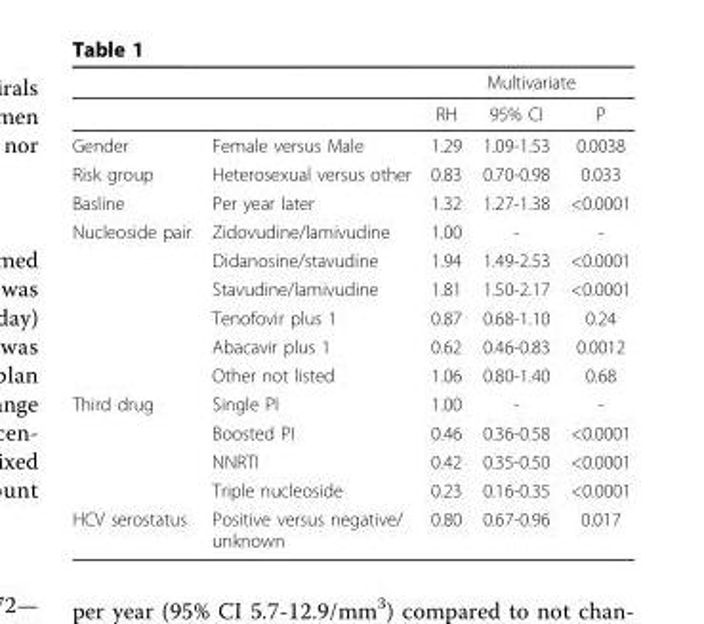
<table><thead><tr><td rowspan="2"></td><td rowspan="2"></td><td colspan="3">Multivariate</td></tr><tr><td>RH</td><td>95% CI</td><td>P</td></tr></thead><tbody><tr><td>Gender</td><td>Female versus Male</td><td>1.29</td><td>1.09-1.53</td><td>0.0038</td></tr><tr><td>Risk group</td><td>Heterosexual versus other</td><td>0.83</td><td>0.70-0.98</td><td>0.033</td></tr><tr><td>Basline</td><td>Per year later</td><td>1.32</td><td>1.27-1.38</td><td>&lt;0.0001</td></tr><tr><td rowspan="6">Nucleoside pair</td><td>Zidovudine/lamivudine</td><td>1.00</td><td>-</td><td>-</td></tr><tr><td>Didanosine/stavudine</td><td>1.94</td><td>1.49-2.53</td><td>&lt;0.0001</td></tr><tr><td>Stavudine/lamivudine</td><td>1.81</td><td>1.50-2.17</td><td>&lt;0.0001</td></tr><tr><td>Tenofovir plus 1</td><td>0.87</td><td>0.68-1.10</td><td>0.24</td></tr><tr><td>Abacavir plus 1</td><td>0.62</td><td>0.46-0.83</td><td>0.0012</td></tr><tr><td>Other not listed</td><td>1.06</td><td>0.80-1.40</td><td>0.68</td></tr><tr><td rowspan="4">Third drug</td><td>Single PI</td><td>1.00</td><td>-</td><td>-</td></tr><tr><td>Boosted PI</td><td>0.46</td><td>0.36-0.58</td><td>&lt;0.0001</td></tr><tr><td>NNRTI</td><td>0.42</td><td>0.35-0.50</td><td>&lt;0.0001</td></tr><tr><td>Triple nucleoside</td><td>0.23</td><td>0.16-0.35</td><td>&lt;0.0001</td></tr><tr><td>HCV serostatus</td><td>Positive versus negative/ unknown</td><td>0.80</td><td>0.67-0.96</td><td>0.017</td></tr></tbody></table>